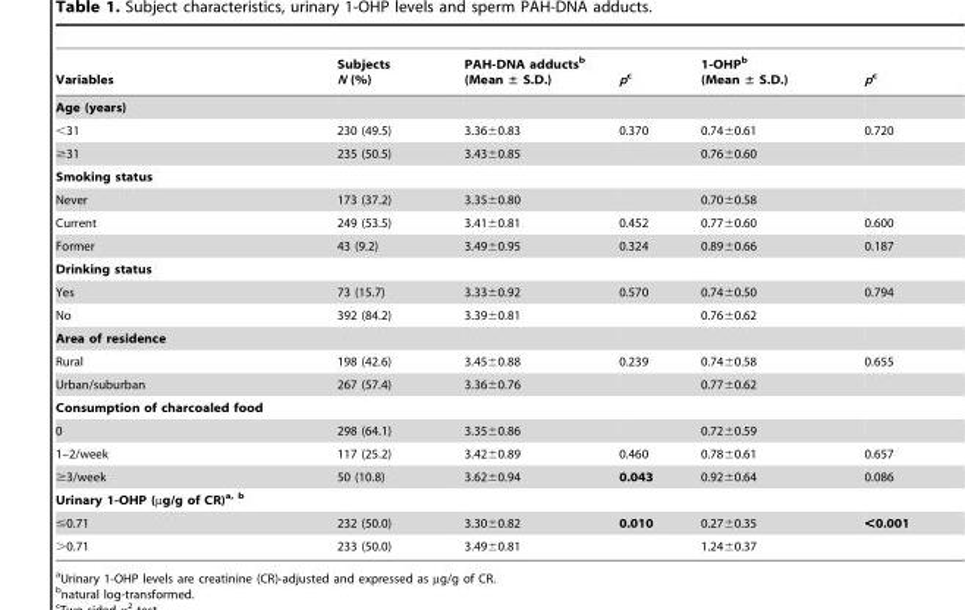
<table><thead><tr><td>Variables</td><td>Subjects N (%)</td><td>PAH-DNA adducts<sup>b</sup> (Mean ± S.D.)</td><td>pc</td><td>1-OHP<sup>b</sup> (Mean ± S.D.)</td><td>pc</td></tr></thead><tbody><tr><td colspan="6">Age (years)</td></tr><tr><td>&lt;31</td><td>230 (49.5)</td><td>3.36±0.83</td><td>0.370</td><td>0.74±0.61</td><td>0.720</td></tr><tr><td>≥31</td><td>235 (50.5)</td><td>3.43±0.85</td><td></td><td>0.76±0.60</td><td></td></tr><tr><td colspan="6">Smoking status</td></tr><tr><td>Never</td><td>173 (37.2)</td><td>3.35±0.80</td><td></td><td>0.70±0.58</td><td></td></tr><tr><td>Current</td><td>249 (53.5)</td><td>3.41±0.81</td><td>0.452</td><td>0.77±0.60</td><td>0.600</td></tr><tr><td>Former</td><td>43 (9.2)</td><td>3.49±0.95</td><td>0.324</td><td>0.89±0.66</td><td>0.187</td></tr><tr><td colspan="6">Drinking status</td></tr><tr><td>Yes</td><td>73 (15.7)</td><td>3.33±0.92</td><td>0.570</td><td>0.74±0.50</td><td>0.794</td></tr><tr><td>No</td><td>392 (84.2)</td><td>3.39±0.81</td><td></td><td>0.76±0.62</td><td></td></tr><tr><td colspan="6">Area of residence</td></tr><tr><td>Rural</td><td>198 (42.6)</td><td>3.45±0.88</td><td>0.239</td><td>0.74±0.58</td><td>0.655</td></tr><tr><td>Urban/suburban</td><td>267 (57.4)</td><td>3.36±0.76</td><td></td><td>0.77±0.62</td><td></td></tr><tr><td colspan="6">Consumption of charcoaled food</td></tr><tr><td>0</td><td>298 (64.1)</td><td>3.35±0.86</td><td></td><td>0.72±0.59</td><td></td></tr><tr><td>1–2/week</td><td>117 (25.2)</td><td>3.42±0.89</td><td>0.460</td><td>0.78±0.61</td><td>0.657</td></tr><tr><td>≥3/week</td><td>50 (10.8)</td><td>3.62±0.94</td><td>0.043</td><td>0.92±0.64</td><td>0.086</td></tr><tr><td colspan="6">Urinary 1-OHP (µg/g of CR)a<sup>,</sup> b</td></tr><tr><td>≤0.71</td><td>232 (50.0)</td><td>3.30±0.82</td><td>0.010</td><td>0.27±0.35</td><td>&lt;0.001</td></tr><tr><td>&gt;0.71</td><td>233 (50.0)</td><td>3.49±0.81</td><td></td><td>1.24±0.37</td><td></td></tr></tbody></table>